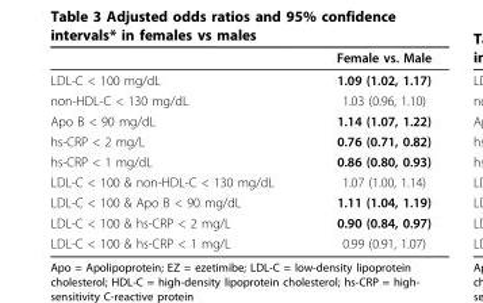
<table><thead><tr><td></td><td>Female vs. Male</td></tr></thead><tbody><tr><td>LDL-C &lt; 100 mg/dL</td><td>1.09 (1.02, 1.17)</td></tr><tr><td>non-HDL-C &lt; 130 mg/dL</td><td>1.03 (0.96, 1.10)</td></tr><tr><td>Apo B &lt; 90 mg/dL</td><td>1.14 (1.07, 1.22)</td></tr><tr><td>hs-CRP &lt; 2 mg/L</td><td>0.76 (0.71, 0.82)</td></tr><tr><td>hs-CRP &lt; 1 mg/dL</td><td>0.86 (0.80, 0.93)</td></tr><tr><td>LDL-C &lt; 100 &amp; non-HDL-C &lt; 130 mg/dL</td><td>1.07 (1.00, 1.14)</td></tr><tr><td>LDL-C &lt; 100 &amp; Apo B &lt; 90 mg/dL</td><td>1.11 (1.04, 1.19)</td></tr><tr><td>LDL-C &lt; 100 &amp; hs-CRP &lt; 2 mg/L</td><td>0.90 (0.84, 0.97)</td></tr><tr><td>LDL-C &lt; 100 &amp; hs-CRP &lt; 1 mg/L</td><td>0.99 (0.91, 1.07)</td></tr></tbody></table>